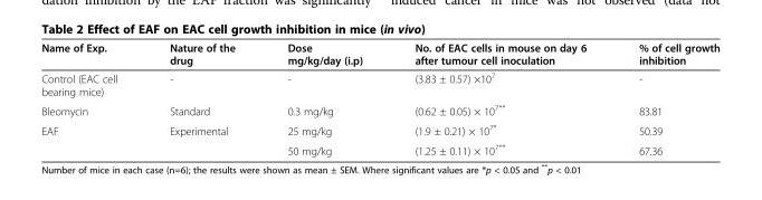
<table><thead><tr><td>Name of Exp.</td><td>Nature of the drug</td><td>Dose mg/kg/day (i.p)</td><td>No. of EAC cells in mouse on day 6 after tumour cell inoculation</td><td>% of cell growth inhibition</td></tr></thead><tbody><tr><td>Control (EAC cell bearing mice)</td><td>-</td><td>-</td><td>(3.83 ± 0.57) ×10<sup>7</sup></td><td>-</td></tr><tr><td>Bleomycin</td><td>Standard</td><td>0.3 mg/kg</td><td>(0.62 ± 0.05) × 10<sup>7**</sup></td><td>83.81</td></tr><tr><td rowspan="2">EAF</td><td rowspan="2">Experimental</td><td>25 mg/kg</td><td>(1.9 ± 0.21) × 10<sup>7*</sup></td><td>50.39</td></tr><tr><td>50 mg/kg</td><td>(1.25 ± 0.11) × 10<sup>7**</sup></td><td>67.36</td></tr></tbody></table>